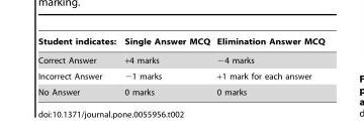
<table><thead><tr><td>Student indicates:</td><td>Single Answer MCQ</td><td>Elimination Answer MCQ</td></tr></thead><tbody><tr><td>Correct Answer</td><td>+4 marks</td><td>−4 marks</td></tr><tr><td>Incorrect Answer</td><td>−1 marks</td><td>+1 mark for each answer</td></tr><tr><td>No Answer</td><td>0 marks</td><td>0 marks</td></tr></tbody></table>